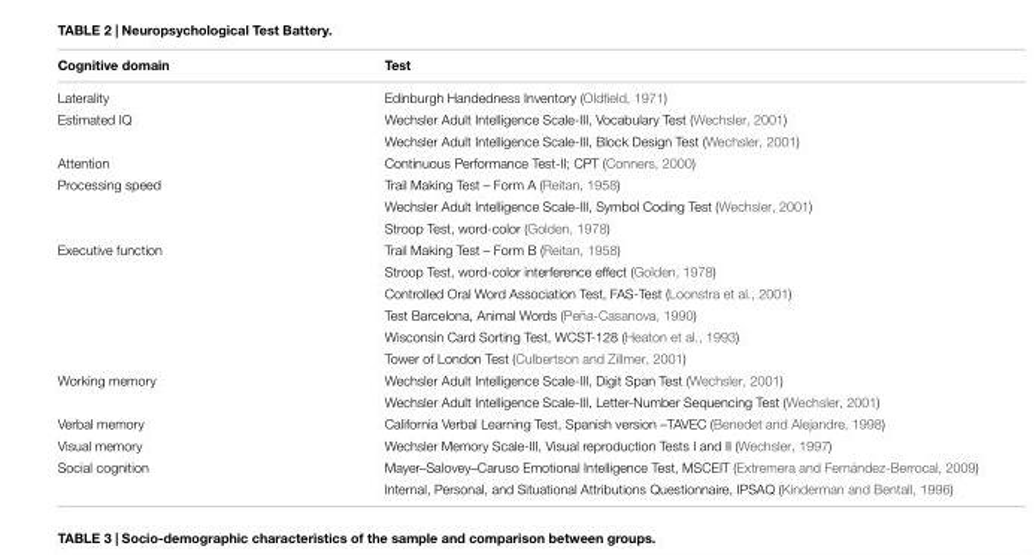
<table><thead><tr><td>Cognitive domain</td><td>Test</td></tr></thead><tbody><tr><td>Laterality</td><td>Edinburgh Handedness Inventory (Oldfield, 1971)</td></tr><tr><td rowspan="2">Estimated IQ</td><td>Wechsler Adult Intelligence Scale-III, Vocabulary Test (Wechsler, 2001)</td></tr><tr><td>Wechsler Adult Intelligence Scale-III, Block Design Test (Wechsler, 2001)</td></tr><tr><td>Attention</td><td>Continuous Performance Test-II; CPT (Conners, 2000)</td></tr><tr><td rowspan="3">Processing speed</td><td>Trail Making Test – Form A (Reitan, 1958)</td></tr><tr><td>Wechsler Adult Intelligence Scale-III, Symbol Coding Test (Wechsler, 2001)</td></tr><tr><td>Stroop Test, word-color (Golden, 1978)</td></tr><tr><td rowspan="6">Executive function</td><td>Trail Making Test – Form B (Reitan, 1958)</td></tr><tr><td>Stroop Test, word-color interference effect (Golden, 1978)</td></tr><tr><td>Controlled Oral Word Association Test, FAS-Test (Loonstra et al., 2001)</td></tr><tr><td>Test Barcelona, Animal Words (Peña-Casanova, 1990)</td></tr><tr><td>Wisconsin Card Sorting Test, WCST-128 (Heaton et al., 1993)</td></tr><tr><td>Tower of London Test (Culbertson and Zillmer, 2001)</td></tr><tr><td rowspan="2">Working memory</td><td>Wechsler Adult Intelligence Scale-III, Digit Span Test (Wechsler, 2001)</td></tr><tr><td>Wechsler Adult Intelligence Scale-III, Letter-Number Sequencing Test (Wechsler, 2001)</td></tr><tr><td>Verbal memory</td><td>California Verbal Learning Test, Spanish version –TAVEC (Benedet and Alejandre, 1998)</td></tr><tr><td>Visual memory</td><td>Wechsler Memory Scale-III, Visual reproduction Tests I and II (Wechsler, 1997)</td></tr><tr><td rowspan="2">Social cognition</td><td>Mayer–Salovey–Caruso Emotional Intelligence Test, MSCEIT (Extremera and Fernández-Berrocal, 2009)</td></tr><tr><td>Internal, Personal, and Situational Attributions Questionnaire, IPSAQ (Kinderman and Bentall, 1996)</td></tr></tbody></table>